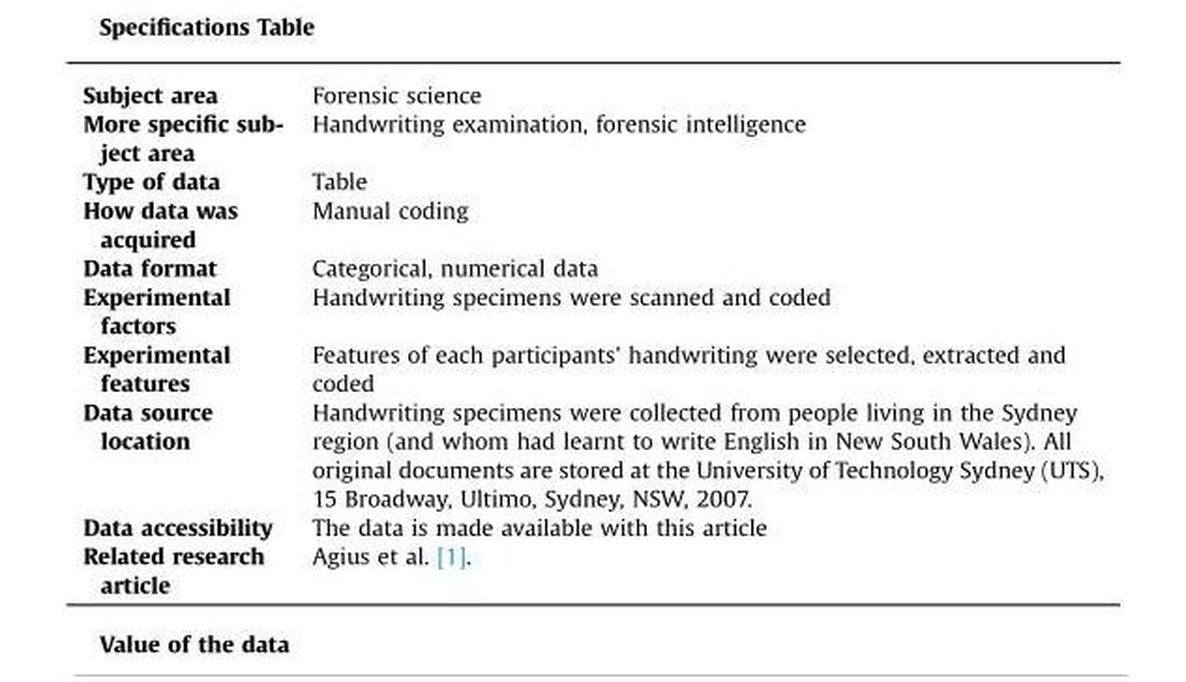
<table><tbody><tr><td>Subject area</td><td>Forensic science</td></tr><tr><td>More specific sub- ject area</td><td>Handwriting examination, forensic intelligence</td></tr><tr><td>Type of data</td><td>Table</td></tr><tr><td>How data was acquired</td><td>Manual coding</td></tr><tr><td>Data format</td><td>Categorical, numerical data</td></tr><tr><td>Experimental factors</td><td>Handwriting specimens were scanned and coded</td></tr><tr><td>Experimental features</td><td>Features of each participants’ handwriting were selected, extracted and coded</td></tr><tr><td>Data source location</td><td>Handwriting specimens were collected from people living in the Sydney region (and whom had learnt to write English in New South Wales). All original documents are stored at the University of Technology Sydney (UTS), 15 Broadway, Ultimo, Sydney, NSW, 2007.</td></tr><tr><td>Data accessibility</td><td>The data is made available with this article</td></tr><tr><td>Related research article</td><td>Agius et al. [1].</td></tr></tbody></table>